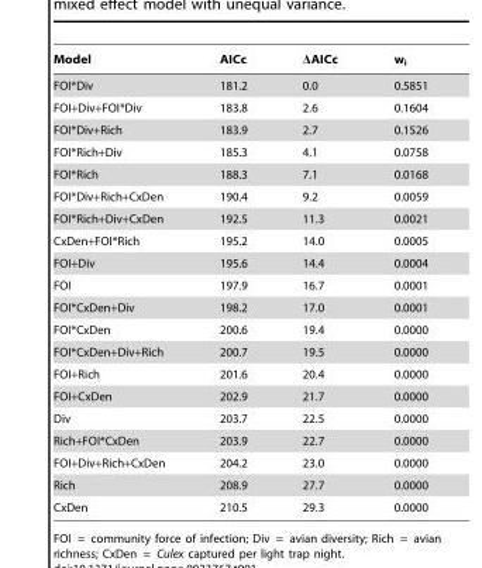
<table><thead><tr><td>Model</td><td>AICc</td><td>ΔAICc</td><td>w<sub>i</sub></td></tr></thead><tbody><tr><td>FOI*Div</td><td>181.2</td><td>0.0</td><td>0.5851</td></tr><tr><td>FOI+Div+FOI*Div</td><td>183.8</td><td>2.6</td><td>0.1604</td></tr><tr><td>FOI*Div+Rich</td><td>183.9</td><td>2.7</td><td>0.1526</td></tr><tr><td>FOI*Rich+Div</td><td>185.3</td><td>4.1</td><td>0.0758</td></tr><tr><td>FOI*Rich</td><td>188.3</td><td>7.1</td><td>0.0168</td></tr><tr><td>FOI*Div+Rich+CxDen</td><td>190.4</td><td>9.2</td><td>0.0059</td></tr><tr><td>FOI*Rich+Div+CxDen</td><td>192.5</td><td>11.3</td><td>0.0021</td></tr><tr><td>CxDen+FOI*Rich</td><td>195.2</td><td>14.0</td><td>0.0005</td></tr><tr><td>FOI+Div</td><td>195.6</td><td>14.4</td><td>0.0004</td></tr><tr><td>FOI</td><td>197.9</td><td>16.7</td><td>0.0001</td></tr><tr><td>FOI*CxDen+Div</td><td>198.2</td><td>17.0</td><td>0.0001</td></tr><tr><td>FOI*CxDen</td><td>200.6</td><td>19.4</td><td>0.0000</td></tr><tr><td>FOI*CxDen+Div+Rich</td><td>200.7</td><td>19.5</td><td>0.0000</td></tr><tr><td>FOI+Rich</td><td>201.6</td><td>20.4</td><td>0.0000</td></tr><tr><td>FOI+CxDen</td><td>202.9</td><td>21.7</td><td>0.0000</td></tr><tr><td>Div</td><td>203.7</td><td>22.5</td><td>0.0000</td></tr><tr><td>Rich+FOI*CxDen</td><td>203.9</td><td>22.7</td><td>0.0000</td></tr><tr><td>FOI+Div+Rich+CxDen</td><td>204.2</td><td>23.0</td><td>0.0000</td></tr><tr><td>Rich</td><td>208.9</td><td>27.7</td><td>0.0000</td></tr><tr><td>CxDen</td><td>210.5</td><td>29.3</td><td>0.0000</td></tr></tbody></table>